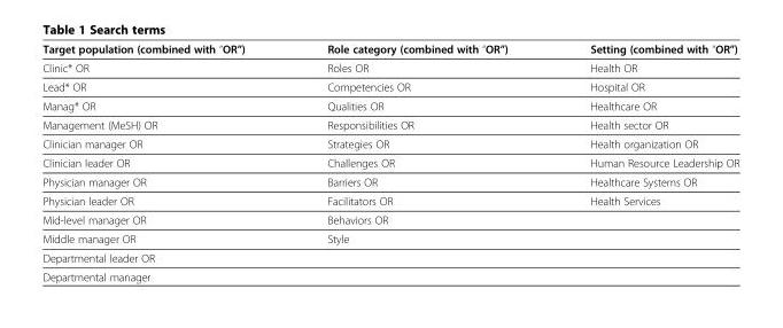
<table><thead><tr><td>Target population (combined with “OR”)</td><td>Role category (combined with “OR”)</td><td>Setting (combined with “OR”)</td></tr></thead><tbody><tr><td>Clinic* OR</td><td>Roles OR</td><td>Health OR</td></tr><tr><td>Lead* OR</td><td>Competencies OR</td><td>Hospital OR</td></tr><tr><td>Manag* OR</td><td>Qualities OR</td><td>Healthcare OR</td></tr><tr><td>Management (MeSH) OR</td><td>Responsibilities OR</td><td>Health sector OR</td></tr><tr><td>Clinician manager OR</td><td>Strategies OR</td><td>Health organization OR</td></tr><tr><td>Clinician leader OR</td><td>Challenges OR</td><td>Human Resource Leadership OR</td></tr><tr><td>Physician manager OR</td><td>Barriers OR</td><td>Healthcare Systems OR</td></tr><tr><td>Physician leader OR</td><td>Facilitators OR</td><td>Health Services</td></tr><tr><td>Mid-level manager OR</td><td>Behaviors OR</td><td></td></tr><tr><td>Middle manager OR</td><td>Style</td><td></td></tr><tr><td colspan="3">Departmental leader OR</td></tr><tr><td>Departmental manager</td><td></td><td></td></tr></tbody></table>